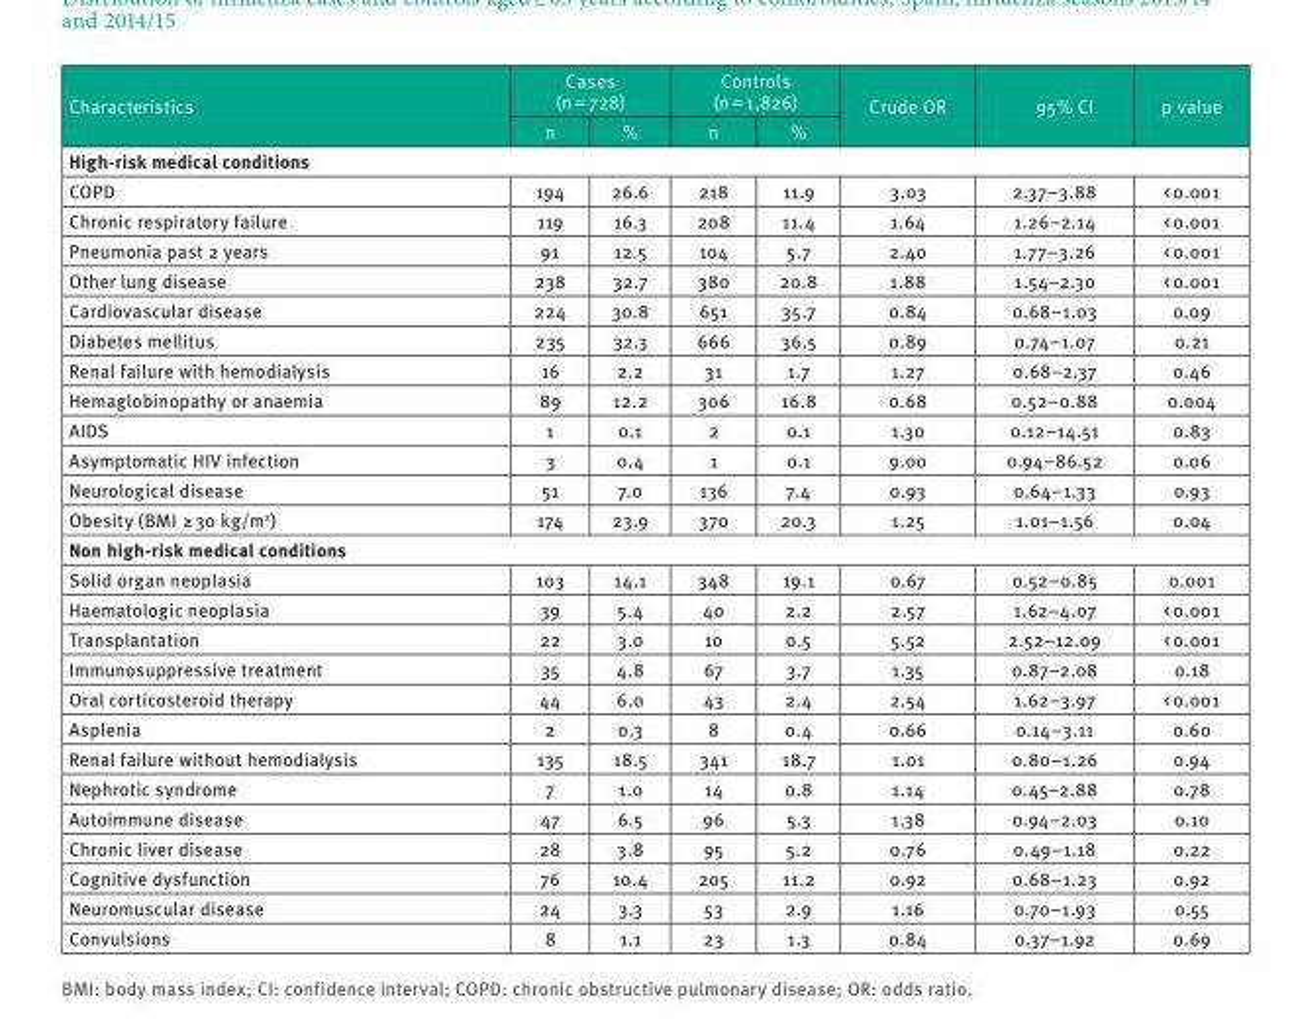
<table><thead><tr><td rowspan="2">Characteristics</td><td colspan="2">Cases (n = 728)</td><td colspan="2">Controls (n = 1,826)</td><td rowspan="2">Crude OR</td><td rowspan="2">95% CI</td><td rowspan="2">p value</td></tr><tr><td>n</td><td>%</td><td>n</td><td>%</td></tr></thead><tbody><tr><td colspan="8">High-risk medical conditions</td></tr><tr><td>COPD</td><td>194</td><td>26.6</td><td>218</td><td>11.9</td><td>3.03</td><td>2.37–3.88</td><td>&lt; 0.001</td></tr><tr><td>Chronic respiratory failure</td><td>119</td><td>16.3</td><td>208</td><td>11.4</td><td>1.64</td><td>1.26–2.14</td><td>&lt; 0.001</td></tr><tr><td>Pneumonia past 2 years</td><td>91</td><td>12.5</td><td>104</td><td>5.7</td><td>2.40</td><td>1.77–3.26</td><td>&lt; 0.001</td></tr><tr><td>Other lung disease</td><td>238</td><td>32.7</td><td>380</td><td>20.8</td><td>1.88</td><td>1.54–2.30</td><td>&lt; 0.001</td></tr><tr><td>Cardiovascular disease</td><td>224</td><td>30.8</td><td>651</td><td>35.7</td><td>0.84</td><td>0.68–1.03</td><td>0.09</td></tr><tr><td>Diabetes mellitus</td><td>235</td><td>32.3</td><td>666</td><td>36.5</td><td>0.89</td><td>0.74–1.07</td><td>0.21</td></tr><tr><td>Renal failure with hemodialysis</td><td>16</td><td>2.2</td><td>31</td><td>1.7</td><td>1.27</td><td>0.68–2.37</td><td>0.46</td></tr><tr><td>Hemaglobinopathy or anaemia</td><td>89</td><td>12.2</td><td>306</td><td>16.8</td><td>0.68</td><td>0.52–0.88</td><td>0.004</td></tr><tr><td>AIDS</td><td>1</td><td>0.1</td><td>2</td><td>0.1</td><td>1.30</td><td>0.12–14.51</td><td>0.83</td></tr><tr><td>Asymptomatic HIV infection</td><td>3</td><td>0.4</td><td>1</td><td>0.1</td><td>9.00</td><td>0.94–86.52</td><td>0.06</td></tr><tr><td>Neurological disease</td><td>51</td><td>7.0</td><td>136</td><td>7.4</td><td>0.93</td><td>0.64–1.33</td><td>0.93</td></tr><tr><td>Obesity (BMI ≥ 30 kg/m<sup>2</sup>)</td><td>174</td><td>23.9</td><td>370</td><td>20.3</td><td>1.25</td><td>1.01–1.56</td><td>0.04</td></tr><tr><td colspan="8">Non high-risk medical conditions</td></tr><tr><td>Solid organ neoplasia</td><td>103</td><td>14.1</td><td>348</td><td>19.1</td><td>0.67</td><td>0.52–0.85</td><td>0.001</td></tr><tr><td>Haematologic neoplasia</td><td>39</td><td>5.4</td><td>40</td><td>2.2</td><td>2.57</td><td>1.62–4.07</td><td>&lt; 0.001</td></tr><tr><td>Transplantation</td><td>22</td><td>3.0</td><td>10</td><td>0.5</td><td>5.52</td><td>2.52–12.09</td><td>&lt; 0.001</td></tr><tr><td>Immunosuppressive treatment</td><td>35</td><td>4.8</td><td>67</td><td>3.7</td><td>1.35</td><td>0.87–2.08</td><td>0.18</td></tr><tr><td>Oral corticosteroid therapy</td><td>44</td><td>6.0</td><td>43</td><td>2.4</td><td>2.54</td><td>1.62–3.97</td><td>&lt; 0.001</td></tr><tr><td>Asplenia</td><td>2</td><td>0.3</td><td>8</td><td>0.4</td><td>0.66</td><td>0.14–3.11</td><td>0.60</td></tr><tr><td>Renal failure without hemodialysis</td><td>135</td><td>18.5</td><td>341</td><td>18.7</td><td>1.01</td><td>0.80–1.26</td><td>0.94</td></tr><tr><td>Nephrotic syndrome</td><td>7</td><td>1.0</td><td>14</td><td>0.8</td><td>1.14</td><td>0.45–2.88</td><td>0.78</td></tr><tr><td>Autoimmune disease</td><td>47</td><td>6.5</td><td>96</td><td>5.3</td><td>1.38</td><td>0.94–2.03</td><td>0.10</td></tr><tr><td>Chronic liver disease</td><td>28</td><td>3.8</td><td>95</td><td>5.2</td><td>0.76</td><td>0.49–1.18</td><td>0.22</td></tr><tr><td>Cognitive dysfunction</td><td>76</td><td>10.4</td><td>205</td><td>11.2</td><td>0.92</td><td>0.68–1.23</td><td>0.92</td></tr><tr><td>Neuromuscular disease</td><td>24</td><td>3.3</td><td>53</td><td>2.9</td><td>1.16</td><td>0.70–1.93</td><td>0.55</td></tr><tr><td>Convulsions</td><td>8</td><td>1.1</td><td>23</td><td>1.3</td><td>0.84</td><td>0.37–1.92</td><td>0.69</td></tr></tbody></table>